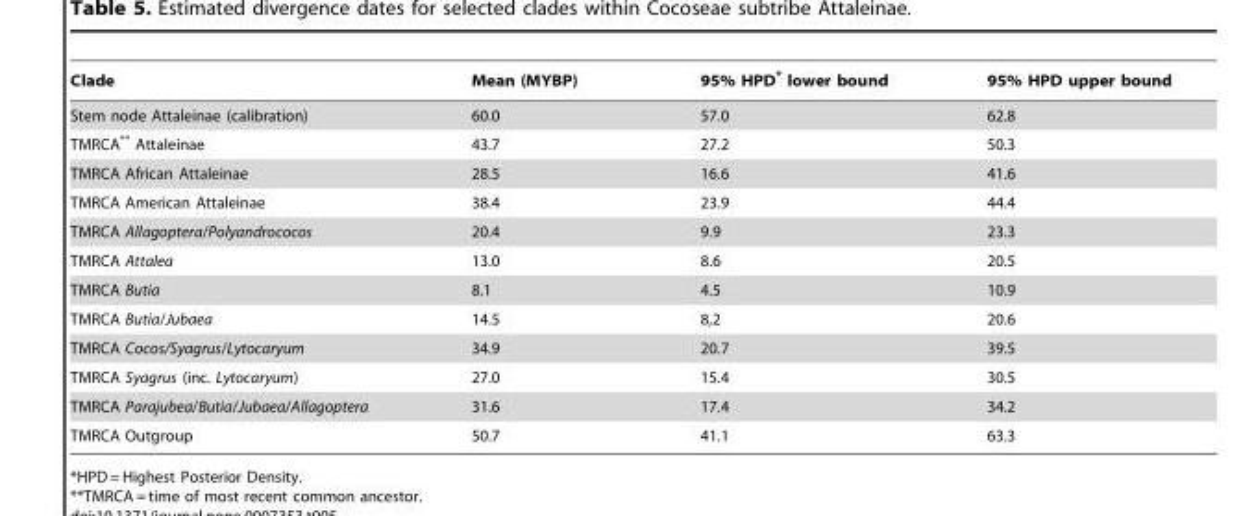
<table><thead><tr><td>Clade</td><td>Mean (MYBP)</td><td>95% HPD* lower bound</td><td>95% HPD upper bound</td></tr></thead><tbody><tr><td>Stem node Attaleinae (calibration)</td><td>60.0</td><td>57.0</td><td>62.8</td></tr><tr><td>TMRCA** Attaleinae</td><td>43.7</td><td>27.2</td><td>50.3</td></tr><tr><td>TMRCA African Attaleinae</td><td>28.5</td><td>16.6</td><td>41.6</td></tr><tr><td>TMRCA American Attaleinae</td><td>38.4</td><td>23.9</td><td>44.4</td></tr><tr><td>TMRCA Allagoptera/Polyandrococos</td><td>20.4</td><td>9.9</td><td>23.3</td></tr><tr><td>TMRCA Attalea</td><td>13.0</td><td>8.6</td><td>20.5</td></tr><tr><td>TMRCA Butia</td><td>8.1</td><td>4.5</td><td>10.9</td></tr><tr><td>TMRCA Butia/Jubaea</td><td>14.5</td><td>8,2</td><td>20.6</td></tr><tr><td>TMRCA Cocos/Syagrus/Lytocaryum</td><td>34.9</td><td>20.7</td><td>39.5</td></tr><tr><td>TMRCA Syagrus (inc. Lytocaryum)</td><td>27.0</td><td>15.4</td><td>30.5</td></tr><tr><td>TMRCA Parajubea/Butia/Jubaea/Allagoptera</td><td>31.6</td><td>17.4</td><td>34.2</td></tr><tr><td>TMRCA Outgroup</td><td>50.7</td><td>41.1</td><td>63.3</td></tr></tbody></table>